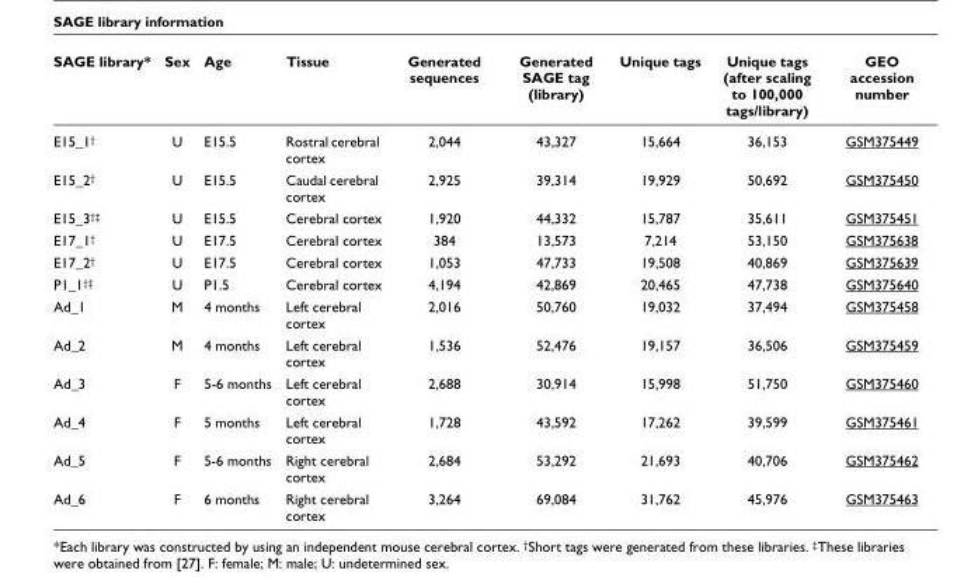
<table><thead><tr><td>SAGE library*</td><td>Sex</td><td>Age</td><td>Tissue</td><td>Generated sequences</td><td>Generated SAGE tag (library)</td><td>Unique tags</td><td>Unique tags (after scaling to 100,000 tags/library)</td><td>GEO accession number</td></tr></thead><tbody><tr><td>E15_1<sup>†</sup></td><td>U</td><td>E15.5</td><td>Rostral cerebral cortex</td><td>2,044</td><td>43,327</td><td>15,664</td><td>36,153</td><td>GSM375449</td></tr><tr><td>E15_2<sup>†</sup></td><td>U</td><td>E15.5</td><td>Caudal cerebral cortex</td><td>2,925</td><td>39,314</td><td>19,929</td><td>50,692</td><td>GSM375450</td></tr><tr><td>E15_3<sup>†‡</sup></td><td>U</td><td>E15.5</td><td>Cerebral cortex</td><td>1,920</td><td>44,332</td><td>15,787</td><td>35,611</td><td>GSM375451</td></tr><tr><td>E17_1<sup>†</sup></td><td>U</td><td>E17.5</td><td>Cerebral cortex</td><td>384</td><td>13,573</td><td>7,214</td><td>53,150</td><td>GSM375638</td></tr><tr><td>E17_2<sup>†</sup></td><td>U</td><td>E17.5</td><td>Cerebral cortex</td><td>1,053</td><td>47,733</td><td>19,508</td><td>40,869</td><td>GSM375639</td></tr><tr><td>P1_1<sup>†‡</sup></td><td>U</td><td>P1.5</td><td>Cerebral cortex</td><td>4,194</td><td>42,869</td><td>20,465</td><td>47,738</td><td>GSM375640</td></tr><tr><td>Ad_1</td><td>M</td><td>4 months</td><td>Left cerebral cortex</td><td>2,016</td><td>50,760</td><td>19,032</td><td>37,494</td><td>GSM375458</td></tr><tr><td>Ad_2</td><td>M</td><td>4 months</td><td>Left cerebral cortex</td><td>1,536</td><td>52,476</td><td>19,157</td><td>36,506</td><td>GSM375459</td></tr><tr><td>Ad_3</td><td>F</td><td>5-6 months</td><td>Left cerebral cortex</td><td>2,688</td><td>30,914</td><td>15,998</td><td>51,750</td><td>GSM375460</td></tr><tr><td>Ad_4</td><td>F</td><td>5 months</td><td>Left cerebral cortex</td><td>1,728</td><td>43,592</td><td>17,262</td><td>39,599</td><td>GSM375461</td></tr><tr><td>Ad_5</td><td>F</td><td>5-6 months</td><td>Right cerebral cortex</td><td>2,684</td><td>53,292</td><td>21,693</td><td>40,706</td><td>GSM375462</td></tr><tr><td>Ad_6</td><td>F</td><td>6 months</td><td>Right cerebral cortex</td><td>3,264</td><td>69,084</td><td>31,762</td><td>45,976</td><td>GSM375463</td></tr></tbody></table>